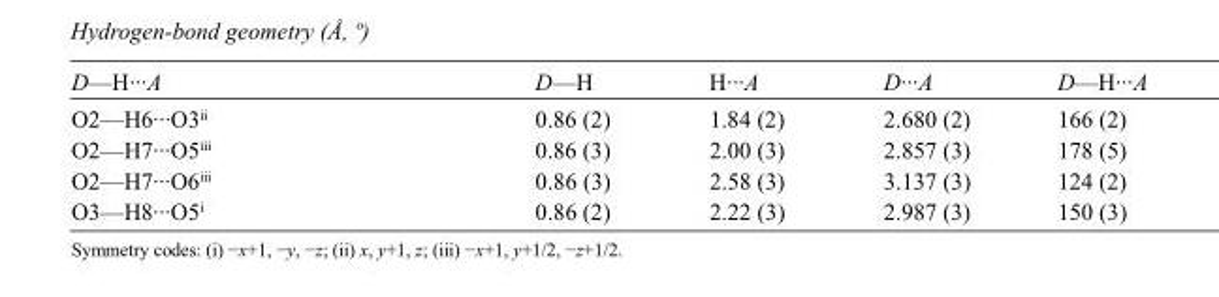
<table><tbody><tr><td>D—H···A</td><td>D—H</td><td>H···A</td><td>D···A</td><td>D—H···A</td></tr><tr><td>O2—H6···O3<sup>ii</sup></td><td>0.86 (2)</td><td>1.84 (2)</td><td>2.680 (2)</td><td>166 (2)</td></tr><tr><td>O2—H7···O5<sup>iii</sup></td><td>0.86 (3)</td><td>2.00 (3)</td><td>2.857 (3)</td><td>178 (5)</td></tr><tr><td>O2—H7···O6<sup>iii</sup></td><td>0.86 (3)</td><td>2.58 (3)</td><td>3.137 (3)</td><td>124 (2)</td></tr><tr><td>O3—H8···O5<sup>i</sup></td><td>0.86 (2)</td><td>2.22 (3)</td><td>2.987 (3)</td><td>150 (3)</td></tr></tbody></table>